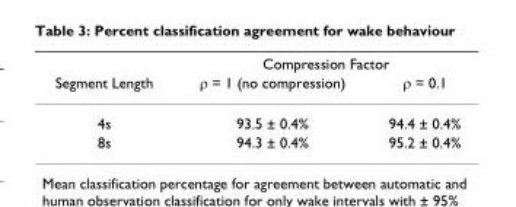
<table><thead><tr><td rowspan="2">Segment Length</td><td colspan="2">Compression Factor</td></tr><tr><td>ρ = 1 (no compression)</td><td>ρ = 0.1</td></tr></thead><tbody><tr><td>4s</td><td>93.5 ± 0.4%</td><td>94.4 ± 0.4%</td></tr><tr><td>8s</td><td>94.3 ± 0.4%</td><td>95.2 ± 0.4%</td></tr></tbody></table>